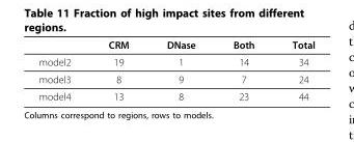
<table><thead><tr><td></td><td>CRM</td><td>DNase</td><td>Both</td><td>Total</td></tr></thead><tbody><tr><td>model2</td><td>19</td><td>1</td><td>14</td><td>34</td></tr><tr><td>model3</td><td>8</td><td>9</td><td>7</td><td>24</td></tr><tr><td>model4</td><td>13</td><td>8</td><td>23</td><td>44</td></tr></tbody></table>